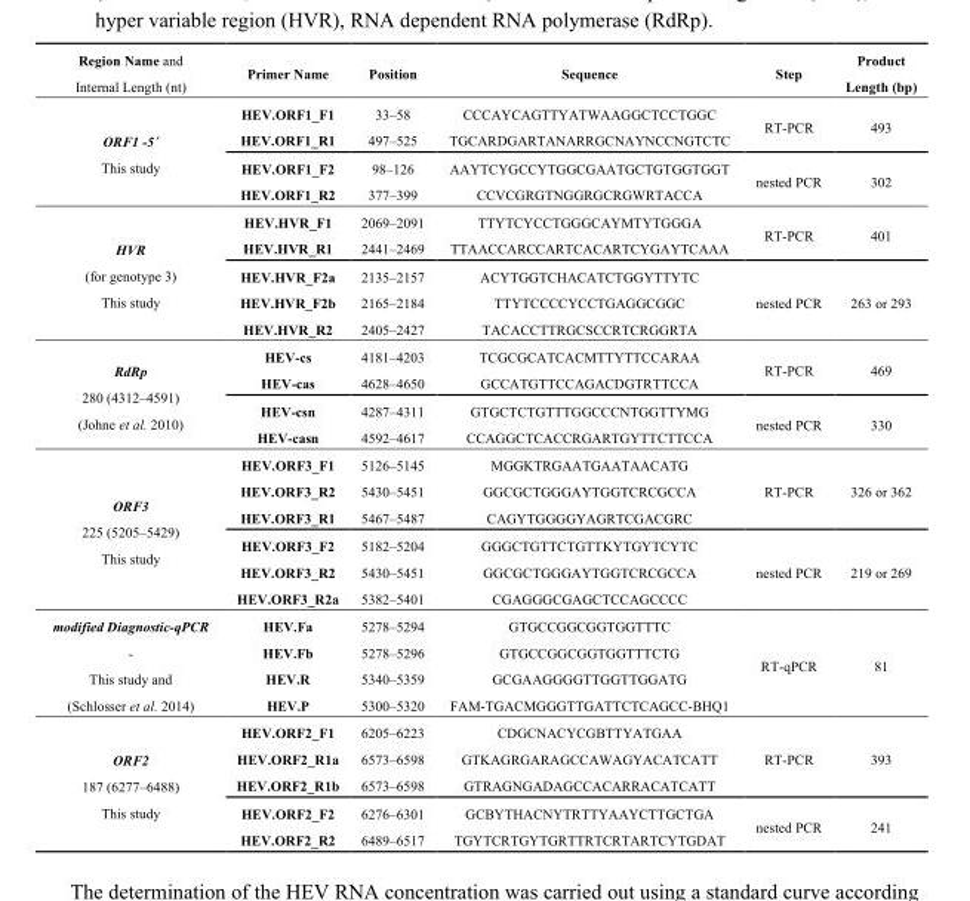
<table><thead><tr><td>Region Name and Internal Length (nt)</td><td>Primer Name</td><td>Position</td><td>Sequence</td><td>Step</td><td>Product Length (bp)</td></tr></thead><tbody><tr><td rowspan="4">ORF1 -5´ This study</td><td>HEV.ORF1_F1</td><td>33–58</td><td>CCCAYCAGTTYATWAAGGCTCCTGGC</td><td rowspan="2">RT-PCR</td><td rowspan="2">493</td></tr><tr><td>HEV.ORF1_R1</td><td>497–525</td><td>TGCARDGARTANARRGCNAYNCCNGTCTC</td></tr><tr><td>HEV.ORF1_F2</td><td>98–126</td><td>AAYTCYGCCYTGGCGAATGCTGTGGTGGT</td><td rowspan="2">nested PCR</td><td rowspan="2">302</td></tr><tr><td>HEV.ORF1_R2</td><td>377–399</td><td>CCVCGRGTNGGRGCRGWRTACCA</td></tr><tr><td rowspan="5">HVR (for genotype 3) This study</td><td>HEV.HVR_F1</td><td>2069–2091</td><td>TTYTCYCCTGGGCAYMTYTGGGA</td><td rowspan="2">RT-PCR</td><td rowspan="2">401</td></tr><tr><td>HEV.HVR_R1</td><td>2441–2469</td><td>TTAACCARCCARTCACARTCYGAYTCAAA</td></tr><tr><td>HEV.HVR_F2a</td><td>2135–2157</td><td>ACYTGGTCHACATCTGGYTTYTC</td><td rowspan="3">nested PCR</td><td rowspan="3">263 or 293</td></tr><tr><td>HEV.HVR_F2b</td><td>2165–2184</td><td>TTYTCCCCYCCTGAGGCGGC</td></tr><tr><td>HEV.HVR_R2</td><td>2405–2427</td><td>TACACCTTRGCSCCRTCRGGRTA</td></tr><tr><td rowspan="4">RdRp 280 (4312–4591) (Johne et al. 2010)</td><td>HEV-cs</td><td>4181–4203</td><td>TCGCGCATCACMTTYTTCCARAA</td><td rowspan="2">RT-PCR</td><td rowspan="2">469</td></tr><tr><td>HEV-cas</td><td>4628–4650</td><td>GCCATGTTCCAGACDGTRTTCCA</td></tr><tr><td>HEV-csn</td><td>4287–4311</td><td>GTGCTCTGTTTGGCCCNTGGTTYMG</td><td rowspan="2">nested PCR</td><td rowspan="2">330</td></tr><tr><td>HEV-casn</td><td>4592–4617</td><td>CCAGGCTCACCRGARTGYTTCTTCCA</td></tr><tr><td rowspan="6">ORF3 225 (5205–5429) This study</td><td>HEV.ORF3_F1</td><td>5126–5145</td><td>MGGKTRGAATGAATAACATG</td><td rowspan="3">RT-PCR</td><td rowspan="3">326 or 362</td></tr><tr><td>HEV.ORF3_R2</td><td>5430–5451</td><td>GGCGCTGGGAYTGGTCRCGCCA</td></tr><tr><td>HEV.ORF3_R1</td><td>5467–5487</td><td>CAGYTGGGGYAGRTCGACGRC</td></tr><tr><td>HEV.ORF3_F2</td><td>5182–5204</td><td>GGGCTGTTCTGTTKYTGYTCYTC</td><td rowspan="3">nested PCR</td><td rowspan="3">219 or 269</td></tr><tr><td>HEV.ORF3_R2</td><td>5430–5451</td><td>GGCGCTGGGAYTGGTCRCGCCA</td></tr><tr><td>HEV.ORF3_R2a</td><td>5382–5401</td><td>CGAGGGCGAGCTCCAGCCCC</td></tr><tr><td rowspan="4">modified Diagnostic-qPCR - This study and (Schlosser et al. 2014)</td><td>HEV.Fa</td><td>5278–5294</td><td>GTGCCGGCGGTGGTTTC</td><td rowspan="4">RT-qPCR</td><td rowspan="4">81</td></tr><tr><td>HEV.Fb</td><td>5278–5296</td><td>GTGCCGGCGGTGGTTTCTG</td></tr><tr><td>HEV.R</td><td>5340–5359</td><td>GCGAAGGGGTTGGTTGGATG</td></tr><tr><td>HEV.P</td><td>5300–5320</td><td>FAM-TGACMGGGTTGATTCTCAGCC-BHQ1</td></tr><tr><td rowspan="5">ORF2 187 (6277–6488) This study</td><td>HEV.ORF2_F1</td><td>6205–6223</td><td>CDGCNACYCGBTTYATGAA</td><td rowspan="3">RT-PCR</td><td rowspan="3">393</td></tr><tr><td>HEV.ORF2_R1a</td><td>6573–6598</td><td>GTKAGRGARAGCCAWAGYACATCATT</td></tr><tr><td>HEV.ORF2_R1b</td><td>6573–6598</td><td>GTRAGNGADAGCCACARRACATCATT</td></tr><tr><td>HEV.ORF2_F2</td><td>6276–6301</td><td>GCBYTHACNYTRTTYAAYCTTGCTGA</td><td rowspan="2">nested PCR</td><td rowspan="2">241</td></tr><tr><td>HEV.ORF2_R2</td><td>6489–6517</td><td>TGYTCRTGYTGRTTRTCRTARTCYTGDAT</td></tr></tbody></table>